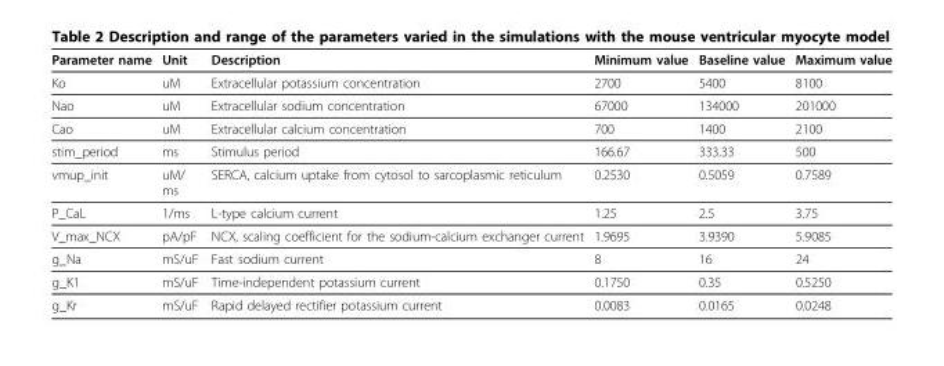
<table><thead><tr><td>Parameter name</td><td>Unit</td><td>Description</td><td>Minimum value</td><td>Baseline value</td><td>Maximum value</td></tr></thead><tbody><tr><td>Ko</td><td>uM</td><td>Extracellular potassium concentration</td><td>2700</td><td>5400</td><td>8100</td></tr><tr><td>Nao</td><td>uM</td><td>Extracellular sodium concentration</td><td>67000</td><td>134000</td><td>201000</td></tr><tr><td>Cao</td><td>uM</td><td>Extracellular calcium concentration</td><td>700</td><td>1400</td><td>2100</td></tr><tr><td>stim_period</td><td>ms</td><td>Stimulus period</td><td>166.67</td><td>333.33</td><td>500</td></tr><tr><td>vmup_init</td><td>uM/ ms</td><td>SERCA, calcium uptake from cytosol to sarcoplasmic reticulum</td><td>0.2530</td><td>0.5059</td><td>0.7589</td></tr><tr><td>P_CaL</td><td>1/ms</td><td>L-type calcium current</td><td>1.25</td><td>2.5</td><td>3.75</td></tr><tr><td>V_max_NCX</td><td>pA/pF</td><td>NCX, scaling coefficient for the sodium-calcium exchanger current</td><td>1.9695</td><td>3.9390</td><td>5.9085</td></tr><tr><td>g_Na</td><td>mS/uF</td><td>Fast sodium current</td><td>8</td><td>16</td><td>24</td></tr><tr><td>g_K1</td><td>mS/uF</td><td>Time-independent potassium current</td><td>0.1750</td><td>0.35</td><td>0.5250</td></tr><tr><td>g_Kr</td><td>mS/uF</td><td>Rapid delayed rectifier potassium current</td><td>0.0083</td><td>0.0165</td><td>0.0248</td></tr></tbody></table>